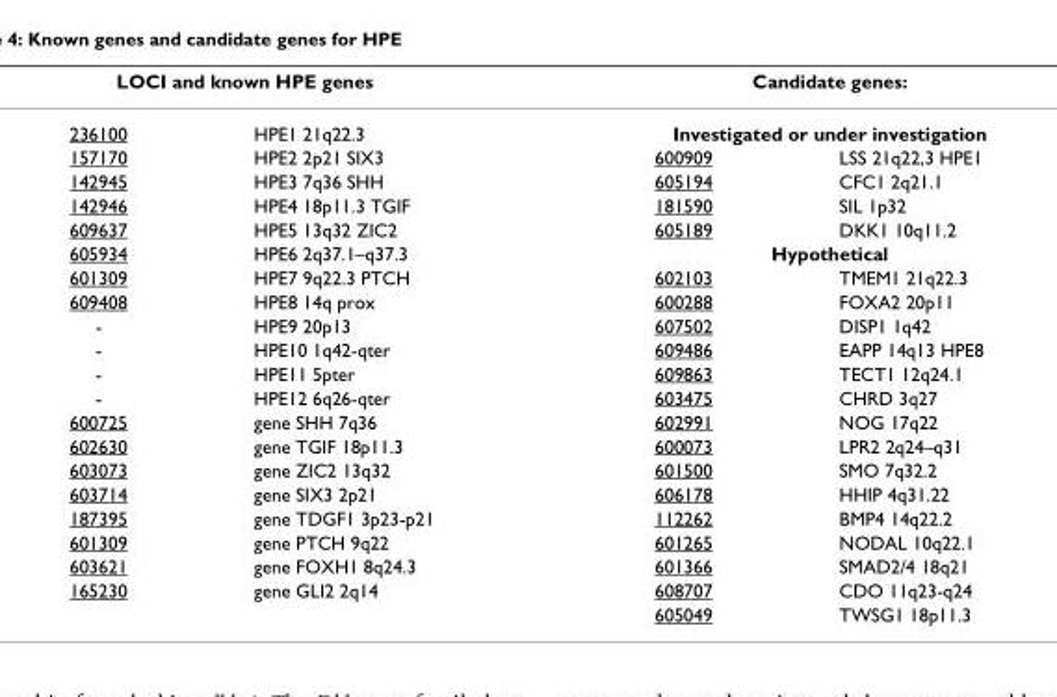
<table><thead><tr><td colspan="2">LOCI and known HPE genes</td><td rowspan="2" colspan="2">Candidate genes: Investigated or under investigation</td></tr><tr><td rowspan="2">236100 157170</td><td rowspan="2">HPE1 21q22.3 HPE2 2p21 SIX3</td></tr><tr><td>600909</td><td>LSS 21q22,3 HPE1</td></tr></thead><tbody><tr><td>142945</td><td>HPE3 7q36 SHH</td><td>605194</td><td>CFC1 2q21.1</td></tr><tr><td>142946</td><td>HPE4 18p11.3 TGIF</td><td>181590</td><td>SIL 1p32</td></tr><tr><td>609637</td><td>HPE5 13q32 ZIC2</td><td>605189</td><td>DKK1 10q11.2</td></tr><tr><td>605934</td><td>HPE6 2q37.1–q37.3</td><td colspan="2">Hypothetical</td></tr><tr><td>601309</td><td>HPE7 9q22.3 PTCH</td><td>602103</td><td>TMEM1 21q22.3</td></tr><tr><td>609408</td><td>HPE8 14q prox</td><td>600288</td><td>FOXA2 20p11</td></tr><tr><td>-</td><td>HPE9 20p13</td><td>607502</td><td>DISP1 1q42</td></tr><tr><td>-</td><td>HPE10 1q42-qter</td><td>609486</td><td>EAPP 14q13 HPE8</td></tr><tr><td>-</td><td>HPE11 5pter</td><td>609863</td><td>TECT1 12q24.1</td></tr><tr><td>-</td><td>HPE12 6q26-qter</td><td>603475</td><td>CHRD 3q27</td></tr><tr><td>600725</td><td>gene SHH 7q36</td><td>602991</td><td>NOG 17q22</td></tr><tr><td>602630</td><td>gene TGIF 18p11.3</td><td>600073</td><td>LPR2 2q24–q31</td></tr><tr><td>603073</td><td>gene ZIC2 13q32</td><td>601500</td><td>SMO 7q32.2</td></tr><tr><td>603714</td><td>gene SIX3 2p21</td><td>606178</td><td>HHIP 4q31.22</td></tr><tr><td>187395</td><td>gene TDGF1 3p23-p21</td><td>112262</td><td>BMP4 14q22.2</td></tr><tr><td>601309</td><td>gene PTCH 9q22</td><td>601265</td><td>NODAL 10q22.1</td></tr><tr><td>603621</td><td>gene FOXH1 8q24.3</td><td>601366</td><td>SMAD2/4 18q21</td></tr><tr><td rowspan="2">165230</td><td>gene GLI2 2q14</td><td>608707</td><td>CDO 11q23-q24</td></tr><tr><td></td><td>605049</td><td>TWSG1 18p11.3</td></tr></tbody></table>